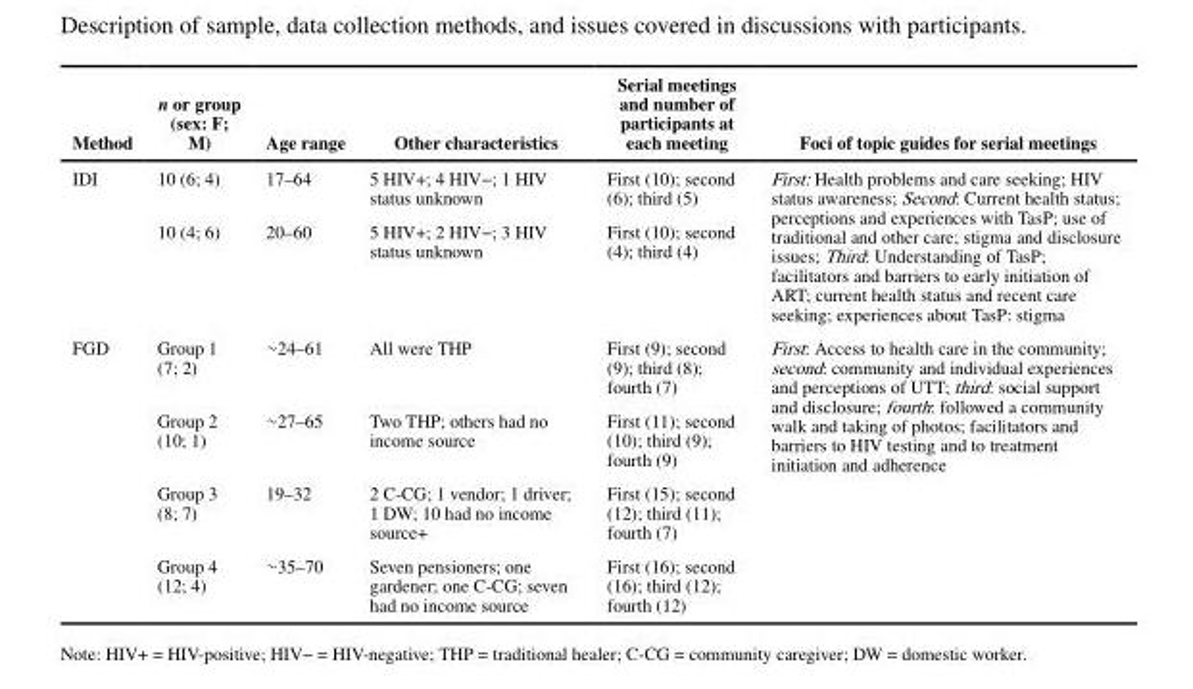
<table><thead><tr><td>Method</td><td>n or group (sex: F; M)</td><td>Age range</td><td>Other characteristics</td><td>Serial meetings and number of participants at each meeting</td><td>Foci of topic guides for serial meetings</td></tr></thead><tbody><tr><td rowspan="2">IDI</td><td>10 (6; 4)</td><td>17–64</td><td>5 HIV+; 4 HIV−; 1 HIV status unknown</td><td>First (10); second (6); third (5)</td><td rowspan="2">First: Health problems and care seeking; HIV status awareness; Second: Current health status; perceptions and experiences with TasP; use of traditional and other care; stigma and disclosure issues; Third: Understanding of TasP; facilitators and barriers to early initiation of ART; current health status and recent care seeking; experiences about TasP: stigma</td></tr><tr><td>10 (4; 6)</td><td>20–60</td><td>5 HIV+; 2 HIV−; 3 HIV status unknown</td><td>First (10); second (4); third (4)</td></tr><tr><td rowspan="4">FGD</td><td>Group 1 (7; 2)</td><td>∼24–61</td><td>All were THP</td><td>First (9); second (9); third (8); fourth (7)</td><td rowspan="4">First: Access to health care in the community; second: community and individual experiences and perceptions of UTT; third: social support and disclosure; fourth: followed a community walk and taking of photos; facilitators and barriers to HIV testing and to treatment initiation and adherence</td></tr><tr><td>Group 2 (10; 1)</td><td>∼27–65</td><td>Two THP; others had no income source</td><td>First (11); second (10); third (9); fourth (9)</td></tr><tr><td>Group 3 (8; 7)</td><td>19–32</td><td>2 C-CG; 1 vendor; 1 driver; 1 DW; 10 had no income source+</td><td>First (15); second (12); third (11); fourth (7)</td></tr><tr><td>Group 4 (12; 4)</td><td>∼35–70</td><td>Seven pensioners; one gardener; one C-CG; seven had no income source</td><td>First (16); second (16); third (12); fourth (12)</td></tr></tbody></table>